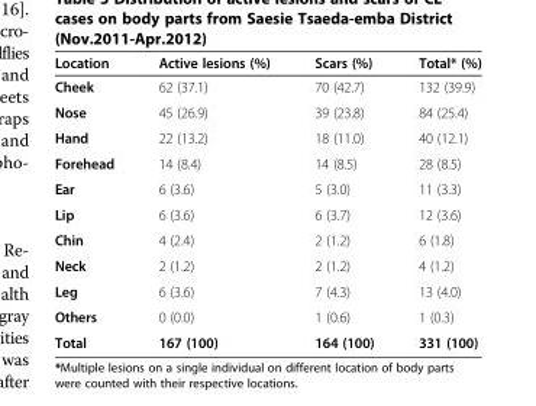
<table><thead><tr><td>Location</td><td>Active lesions (%)</td><td>Scars (%)</td><td>Total* (%)</td></tr></thead><tbody><tr><td>Cheek</td><td>62 (37.1)</td><td>70 (42.7)</td><td>132 (39.9)</td></tr><tr><td>Nose</td><td>45 (26.9)</td><td>39 (23.8)</td><td>84 (25.4)</td></tr><tr><td>Hand</td><td>22 (13.2)</td><td>18 (11.0)</td><td>40 (12.1)</td></tr><tr><td>Forehead</td><td>14 (8.4)</td><td>14 (8.5)</td><td>28 (8.5)</td></tr><tr><td>Ear</td><td>6 (3.6)</td><td>5 (3.0)</td><td>11 (3.3)</td></tr><tr><td>Lip</td><td>6 (3.6)</td><td>6 (3.7)</td><td>12 (3.6)</td></tr><tr><td>Chin</td><td>4 (2.4)</td><td>2 (1.2)</td><td>6 (1.8)</td></tr><tr><td>Neck</td><td>2 (1.2)</td><td>2 (1.2)</td><td>4 (1.2)</td></tr><tr><td>Leg</td><td>6 (3.6)</td><td>7 (4.3)</td><td>13 (4.0)</td></tr><tr><td>Others</td><td>0 (0.0)</td><td>1 (0.6)</td><td>1 (0.3)</td></tr><tr><td>Total</td><td>167 (100)</td><td>164 (100)</td><td>331 (100)</td></tr></tbody></table>